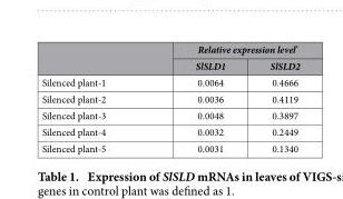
<table><thead><tr><td rowspan="2"></td><td colspan="2">Relative expression level*</td></tr><tr><td>SlSLD1</td><td>SlSLD2</td></tr></thead><tbody><tr><td>Silenced plant-1</td><td>0.0064</td><td>0.4666</td></tr><tr><td>Silenced plant-2</td><td>0.0036</td><td>0.4119</td></tr><tr><td>Silenced plant-3</td><td>0.0048</td><td>0.3897</td></tr><tr><td>Silenced plant-4</td><td>0.0032</td><td>0.2449</td></tr><tr><td>Silenced plant-5</td><td>0.0031</td><td>0.1340</td></tr></tbody></table>